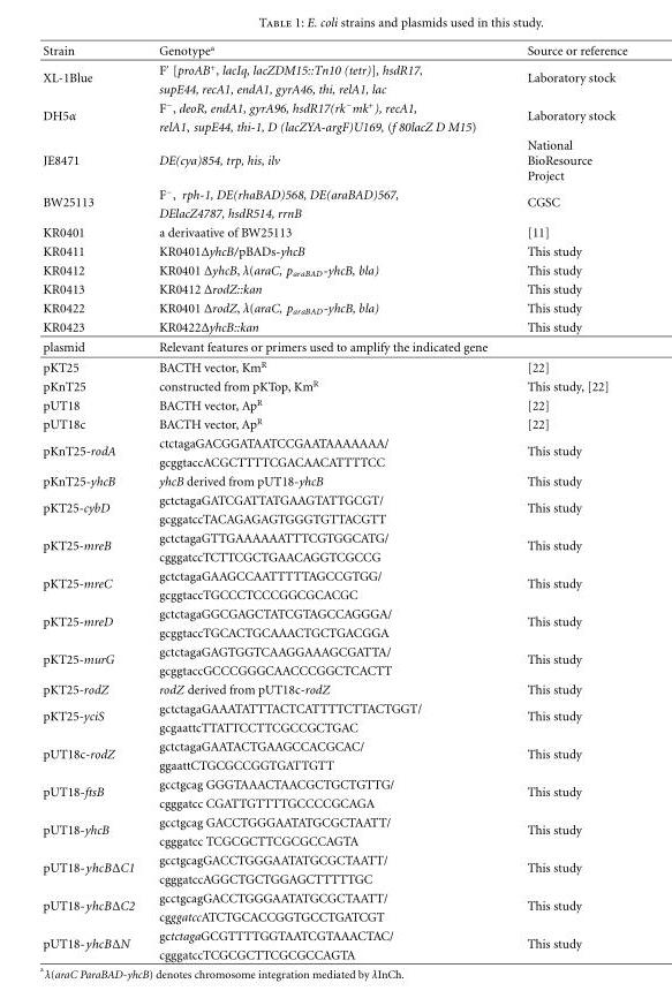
<table><thead><tr><td>Strain</td><td>Genotype<sup>a</sup></td><td>Source or reference</td></tr></thead><tbody><tr><td rowspan="2">XL-1Blue</td><td>F′ [proAB<sup>+</sup>, lacIq, lacZDM15::Tn10 (tetr)], hsdR17,</td><td rowspan="2">Laboratory stock</td></tr><tr><td>supE44, recA1, endA1, gyrA46, thi, relA1, lac</td></tr><tr><td rowspan="2">DH5α</td><td>F<sup>−</sup>, deoR, endA1, gyrA96, hsdR17(rk<sup>−</sup>mk<sup>+</sup>), recA1,</td><td rowspan="2">Laboratory stock</td></tr><tr><td>relA1, supE44, thi-1, D (lacZYA-argF)U169, (f 80lacZ D M15)</td></tr><tr><td>JE8471</td><td>DE(cya)854, trp, his, ilv</td><td>National BioResource Project</td></tr><tr><td rowspan="2">BW25113</td><td>F<sup>−</sup>, rph-1, DE(rhaBAD)568, DE(araBAD)567,</td><td rowspan="2">CGSC</td></tr><tr><td>DElacZ4787, hsdR514, rrnB</td></tr><tr><td>KR0401</td><td>a derivaative of BW25113</td><td>[11]</td></tr><tr><td>KR0411</td><td>KR0401ΔyhcB/pBADs-yhcB</td><td>This study</td></tr><tr><td>KR0412</td><td>KR0401 ΔyhcB, λ(araC, p<sub>araBAD</sub>-yhcB, bla)</td><td>This study</td></tr><tr><td>KR0413</td><td>KR0412 ΔrodZ::kan</td><td>This study</td></tr><tr><td>KR0422</td><td>KR0401 ΔrodZ, λ(araC, p<sub>araBAD</sub>-yhcB, bla)</td><td>This study</td></tr><tr><td>KR0423</td><td>KR0422ΔyhcB::kan</td><td>This study</td></tr><tr><td>plasmid</td><td>Relevant features or primers used to amplify the indicated gene</td><td></td></tr><tr><td>pKT25</td><td>BACTH vector, Km<sup>R</sup></td><td>[22]</td></tr><tr><td>pKnT25</td><td>constructed from pKTop, Km<sup>R</sup></td><td>This study, [22]</td></tr><tr><td>pUT18</td><td>BACTH vector, Ap<sup>R</sup></td><td>[22]</td></tr><tr><td>pUT18c</td><td>BACTH vector, Ap<sup>R</sup></td><td>[22]</td></tr><tr><td rowspan="2">pKnT25-rodA</td><td>ctctagaGACGGATAATCCGAATAAAAAAA/</td><td rowspan="2">This study</td></tr><tr><td>gcggtaccACGCTTTTCGACAACATTTTCC</td></tr><tr><td>pKnT25-yhcB</td><td>yhcB derived from pUT18-yhcB</td><td>This study</td></tr><tr><td rowspan="2">pKT25-cybD</td><td>gctctagaGATCGATTATGAAGTATTGCGT/</td><td rowspan="2">This study</td></tr><tr><td>gcggatccTACAGAGAGTGGGTGTTACGTT</td></tr><tr><td rowspan="2">pKT25-mreB</td><td>gctctagaGTTGAAAAAATTTCGTGGCATG/</td><td rowspan="2">This study</td></tr><tr><td>cgggatccTCTTCGCTGAACAGGTCGCCG</td></tr><tr><td rowspan="2">pKT25-mreC</td><td>gctctagaGAAGCCAATTTTTAGCCGTGG/</td><td rowspan="2">This study</td></tr><tr><td>gcggtaccTGCCCTCCCGGCGCACGC</td></tr><tr><td rowspan="2">pKT25-mreD</td><td>gctctagaGGCGAGCTATCGTAGCCAGGGA/</td><td rowspan="2">This study</td></tr><tr><td>gcggtaccTGCACTGCAAACTGCTGACGGA</td></tr><tr><td rowspan="2">pKT25-murG</td><td>gctctagaGAGTGGTCAAGGAAAGCGATTA/</td><td rowspan="2">This study</td></tr><tr><td>gcggtaccGCCCGGGCAACCCGGCTCACTT</td></tr><tr><td>pKT25-rodZ</td><td>rodZ derived from pUT18c-rodZ</td><td>This study</td></tr><tr><td rowspan="2">pKT25-yciS</td><td>gctctagaGAAATATTTACTCATTTTCTTACTGGT/</td><td rowspan="2">This study</td></tr><tr><td>gcgaattcTTATTCCTTCGCCGCTGAC</td></tr><tr><td rowspan="2">pUT18c-rodZ</td><td>gctctagaGAATACTGAAGCCACGCAC/</td><td rowspan="2">This study</td></tr><tr><td>ggaattCTGCGCCGGTGATTGTT</td></tr><tr><td rowspan="2">pUT18-ftsB</td><td>gcctgcag GGGTAAACTAACGCTGCTGTTG/</td><td rowspan="2">This study</td></tr><tr><td>cgggatcc CGATTGTTTTGCCCCGCAGA</td></tr><tr><td rowspan="2">pUT18-yhcB</td><td>gcctgcag GACCTGGGAATATGCGCTAATT/</td><td rowspan="2">This study</td></tr><tr><td>cgggatcc TCGCGCTTCGCGCCAGTA</td></tr><tr><td rowspan="2">pUT18-yhcBΔC1</td><td>gcctgcagGACCTGGGAATATGCGCTAATT/</td><td rowspan="2">This study</td></tr><tr><td>cgggatccAGGCTGCTGGAGCTTTTTGC</td></tr><tr><td rowspan="2">pUT18-yhcBΔC2</td><td>gcctgcagGACCTGGGAATATGCGCTAATT/</td><td rowspan="2">This study</td></tr><tr><td>cgggatccATCTGCACCGGTGCCTGATCGT</td></tr><tr><td rowspan="2">pUT18-yhcBΔN</td><td>gctctagaGCGTTTTGGTAATCGTAAACTAC/</td><td rowspan="2">This study</td></tr><tr><td>cgggatccTCGCGCTTCGCGCCAGTA</td></tr></tbody></table>